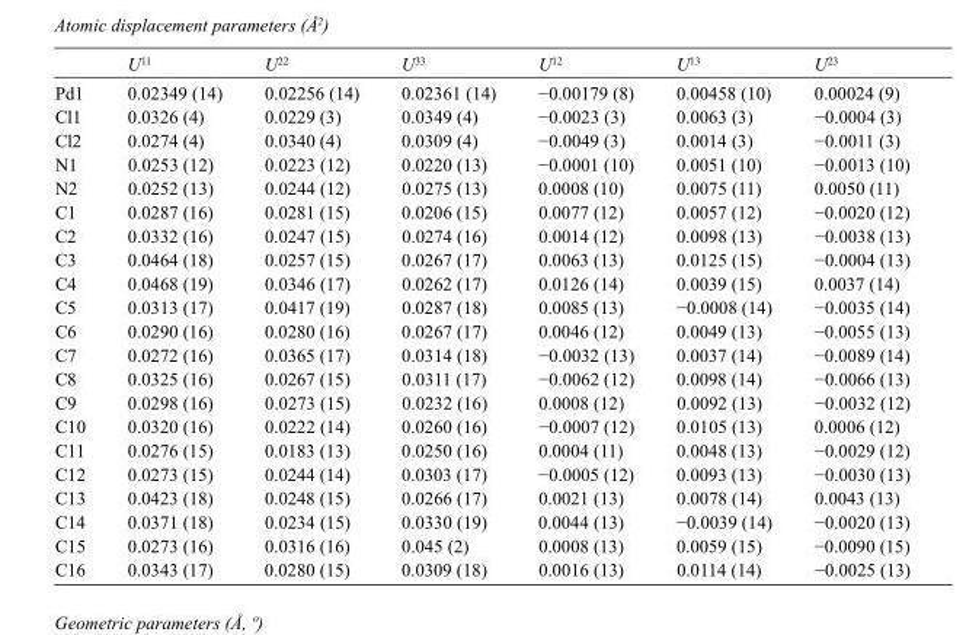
<table><thead><tr><td></td><td>U<sup>11</sup></td><td>U<sup>22</sup></td><td>U<sup>33</sup></td><td>U<sup>12</sup></td><td>U<sup>13</sup></td><td>U<sup>23</sup></td></tr></thead><tbody><tr><td>Pd1</td><td>0.02349 (14)</td><td>0.02256 (14)</td><td>0.02361 (14)</td><td>−0.00179 (8)</td><td>0.00458 (10)</td><td>0.00024 (9)</td></tr><tr><td>Cl1</td><td>0.0326 (4)</td><td>0.0229 (3)</td><td>0.0349 (4)</td><td>−0.0023 (3)</td><td>0.0063 (3)</td><td>−0.0004 (3)</td></tr><tr><td>Cl2</td><td>0.0274 (4)</td><td>0.0340 (4)</td><td>0.0309 (4)</td><td>−0.0049 (3)</td><td>0.0014 (3)</td><td>−0.0011 (3)</td></tr><tr><td>N1</td><td>0.0253 (12)</td><td>0.0223 (12)</td><td>0.0220 (13)</td><td>−0.0001 (10)</td><td>0.0051 (10)</td><td>−0.0013 (10)</td></tr><tr><td>N2</td><td>0.0252 (13)</td><td>0.0244 (12)</td><td>0.0275 (13)</td><td>0.0008 (10)</td><td>0.0075 (11)</td><td>0.0050 (11)</td></tr><tr><td>C1</td><td>0.0287 (16)</td><td>0.0281 (15)</td><td>0.0206 (15)</td><td>0.0077 (12)</td><td>0.0057 (12)</td><td>−0.0020 (12)</td></tr><tr><td>C2</td><td>0.0332 (16)</td><td>0.0247 (15)</td><td>0.0274 (16)</td><td>0.0014 (12)</td><td>0.0098 (13)</td><td>−0.0038 (13)</td></tr><tr><td>C3</td><td>0.0464 (18)</td><td>0.0257 (15)</td><td>0.0267 (17)</td><td>0.0063 (13)</td><td>0.0125 (15)</td><td>−0.0004 (13)</td></tr><tr><td>C4</td><td>0.0468 (19)</td><td>0.0346 (17)</td><td>0.0262 (17)</td><td>0.0126 (14)</td><td>0.0039 (15)</td><td>0.0037 (14)</td></tr><tr><td>C5</td><td>0.0313 (17)</td><td>0.0417 (19)</td><td>0.0287 (18)</td><td>0.0085 (13)</td><td>−0.0008 (14)</td><td>−0.0035 (14)</td></tr><tr><td>C6</td><td>0.0290 (16)</td><td>0.0280 (16)</td><td>0.0267 (17)</td><td>0.0046 (12)</td><td>0.0049 (13)</td><td>−0.0055 (13)</td></tr><tr><td>C7</td><td>0.0272 (16)</td><td>0.0365 (17)</td><td>0.0314 (18)</td><td>−0.0032 (13)</td><td>0.0037 (14)</td><td>−0.0089 (14)</td></tr><tr><td>C8</td><td>0.0325 (16)</td><td>0.0267 (15)</td><td>0.0311 (17)</td><td>−0.0062 (12)</td><td>0.0098 (14)</td><td>−0.0066 (13)</td></tr><tr><td>C9</td><td>0.0298 (16)</td><td>0.0273 (15)</td><td>0.0232 (16)</td><td>0.0008 (12)</td><td>0.0092 (13)</td><td>−0.0032 (12)</td></tr><tr><td>C10</td><td>0.0320 (16)</td><td>0.0222 (14)</td><td>0.0260 (16)</td><td>−0.0007 (12)</td><td>0.0105 (13)</td><td>0.0006 (12)</td></tr><tr><td>C11</td><td>0.0276 (15)</td><td>0.0183 (13)</td><td>0.0250 (16)</td><td>0.0004 (11)</td><td>0.0048 (13)</td><td>−0.0029 (12)</td></tr><tr><td>C12</td><td>0.0273 (15)</td><td>0.0244 (14)</td><td>0.0303 (17)</td><td>−0.0005 (12)</td><td>0.0093 (13)</td><td>−0.0030 (13)</td></tr><tr><td>C13</td><td>0.0423 (18)</td><td>0.0248 (15)</td><td>0.0266 (17)</td><td>0.0021 (13)</td><td>0.0078 (14)</td><td>0.0043 (13)</td></tr><tr><td>C14</td><td>0.0371 (18)</td><td>0.0234 (15)</td><td>0.0330 (19)</td><td>0.0044 (13)</td><td>−0.0039 (14)</td><td>−0.0020 (13)</td></tr><tr><td>C15</td><td>0.0273 (16)</td><td>0.0316 (16)</td><td>0.045 (2)</td><td>0.0008 (13)</td><td>0.0059 (15)</td><td>−0.0090 (15)</td></tr><tr><td>C16</td><td>0.0343 (17)</td><td>0.0280 (15)</td><td>0.0309 (18)</td><td>0.0016 (13)</td><td>0.0114 (14)</td><td>−0.0025 (13)</td></tr></tbody></table>